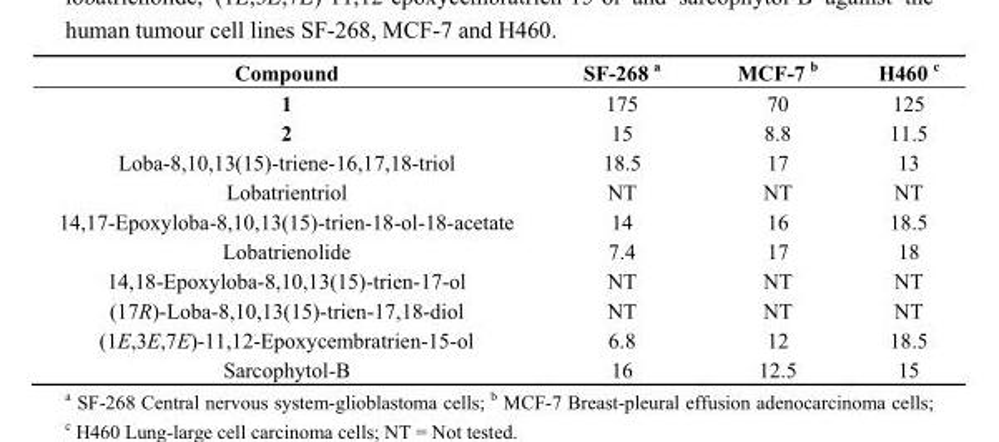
<table><thead><tr><td>Compound</td><td>SF-268 <sup>a</sup></td><td>MCF-7 <sup>b</sup></td><td>H460 <sup>c</sup></td></tr></thead><tbody><tr><td>1</td><td>175</td><td>70</td><td>125</td></tr><tr><td>2</td><td>15</td><td>8.8</td><td>11.5</td></tr><tr><td>Loba-8,10,13(15)-triene-16,17,18-triol</td><td>18.5</td><td>17</td><td>13</td></tr><tr><td>Lobatrientriol</td><td>NT</td><td>NT</td><td>NT</td></tr><tr><td>14,17-Epoxyloba-8,10,13(15)-trien-18-ol-18-acetate</td><td>14</td><td>16</td><td>18.5</td></tr><tr><td>Lobatrienolide</td><td>7.4</td><td>17</td><td>18</td></tr><tr><td>14,18-Epoxyloba-8,10,13(15)-trien-17-ol</td><td>NT</td><td>NT</td><td>NT</td></tr><tr><td>(17R)-Loba-8,10,13(15)-trien-17,18-diol</td><td>NT</td><td>NT</td><td>NT</td></tr><tr><td>(1E,3E,7E)-11,12-Epoxycembratrien-15-ol</td><td>6.8</td><td>12</td><td>18.5</td></tr><tr><td>Sarcophytol-B</td><td>16</td><td>12.5</td><td>15</td></tr></tbody></table>